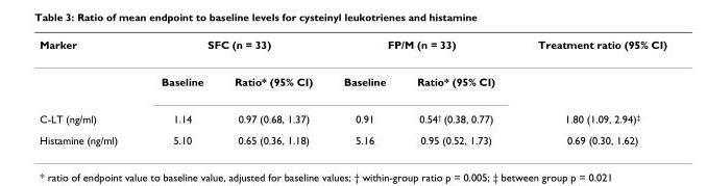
<table><thead><tr><td rowspan="2">Marker</td><td colspan="2">SFC (n = 33)</td><td colspan="2">FP/M (n = 33)</td><td rowspan="2">Treatment ratio (95% CI)</td></tr><tr><td>Baseline</td><td>Ratio* (95% CI)</td><td>Baseline</td><td>Ratio* (95% CI)</td></tr></thead><tbody><tr><td>C-LT (ng/ml)</td><td>1.14</td><td>0.97 (0.68, 1.37)</td><td>0.91</td><td>0.54<sup>†</sup> (0.38, 0.77)</td><td>1.80 (1.09, 2.94)<sup>‡</sup></td></tr><tr><td>Histamine (ng/ml)</td><td>5.10</td><td>0.65 (0.36, 1.18)</td><td>5.16</td><td>0.95 (0.52, 1.73)</td><td>0.69 (0.30, 1.62)</td></tr></tbody></table>